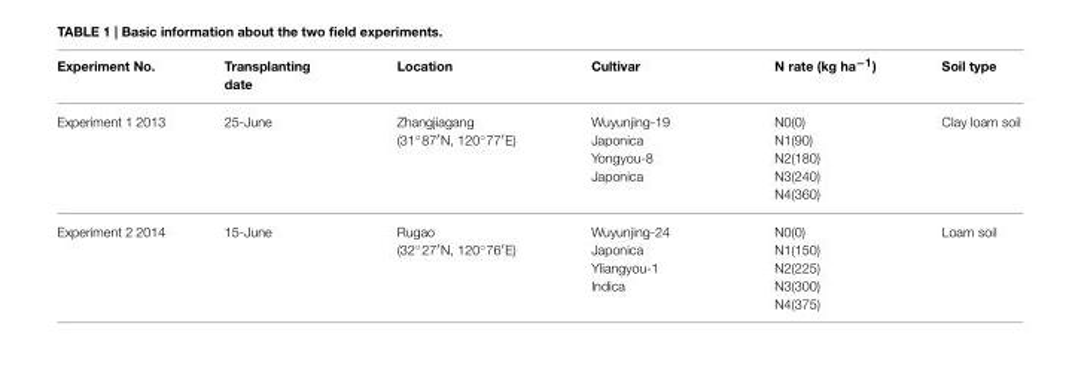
<table><thead><tr><td>Experiment No.</td><td>Transplanting date</td><td>Location</td><td>Cultivar</td><td>N rate (kg ha<sup>−1</sup>)</td><td>Soil type</td></tr></thead><tbody><tr><td>Experiment 1 2013</td><td>25-June</td><td>Zhangjiagang (31◦87′N, 120◦77′E)</td><td>Wuyunjing-19 Japonica Yongyou-8 Japonica</td><td>N0(0) N1(90) N2(180) N3(240) N4(360)</td><td>Clay loam soil</td></tr><tr><td>Experiment 2 2014</td><td>15-June</td><td>Rugao (32◦27′N, 120◦76′E)</td><td>Wuyunjing-24 Japonica Yliangyou-1 Indica</td><td>N0(0) N1(150) N2(225) N3(300) N4(375)</td><td>Loam soil</td></tr></tbody></table>